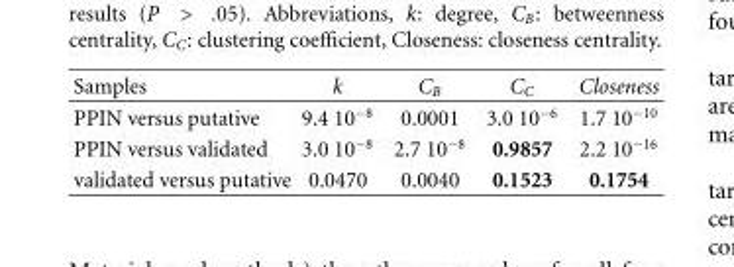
<table><thead><tr><td>Samples</td><td>k</td><td>C<sub>B</sub></td><td>C<sub>C</sub></td><td>Closeness</td></tr></thead><tbody><tr><td>PPIN versus putative</td><td>9.4 10<sup>−8</sup></td><td>0.0001</td><td>3.0 10<sup>−6</sup></td><td>1.7 10<sup>−10</sup></td></tr><tr><td>PPIN versus validated</td><td>3.0 10<sup>−8</sup></td><td>2.7 10<sup>−8</sup></td><td>0.9857</td><td>2.2 10<sup>−16</sup></td></tr><tr><td>validated versus putative</td><td>0.0470</td><td>0.0040</td><td>0.1523</td><td>0.1754</td></tr></tbody></table>